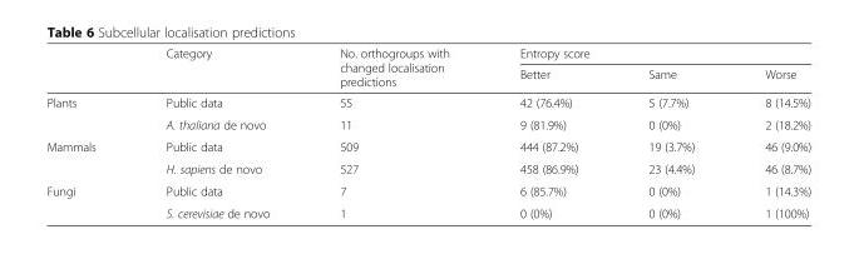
<table><thead><tr><td rowspan="2"></td><td rowspan="2">Category</td><td rowspan="2">No. orthogroups with changed localisation predictions</td><td colspan="3">Entropy score</td></tr><tr><td>Better</td><td>Same</td><td>Worse</td></tr></thead><tbody><tr><td rowspan="2">Plants</td><td>Public data</td><td>55</td><td>42 (76.4%)</td><td>5 (7.7%)</td><td>8 (14.5%)</td></tr><tr><td>A. thaliana de novo</td><td>11</td><td>9 (81.9%)</td><td>0 (0%)</td><td>2 (18.2%)</td></tr><tr><td rowspan="2">Mammals</td><td>Public data</td><td>509</td><td>444 (87.2%)</td><td>19 (3.7%)</td><td>46 (9.0%)</td></tr><tr><td>H. sapiens de novo</td><td>527</td><td>458 (86.9%)</td><td>23 (4.4%)</td><td>46 (8.7%)</td></tr><tr><td rowspan="2">Fungi</td><td>Public data</td><td>7</td><td>6 (85.7%)</td><td>0 (0%)</td><td>1 (14.3%)</td></tr><tr><td>S. cerevisiae de novo</td><td>1</td><td>0 (0%)</td><td>0 (0%)</td><td>1 (100%)</td></tr></tbody></table>